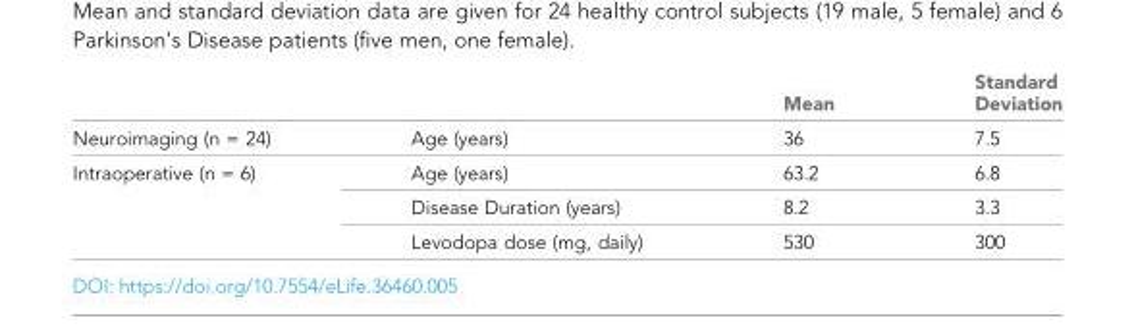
<table><thead><tr><td></td><td></td><td>Mean</td><td>Standard Deviation</td></tr></thead><tbody><tr><td>Neuroimaging (n = 24)</td><td>Age (years)</td><td>36</td><td>7.5</td></tr><tr><td rowspan="3">Intraoperative (n = 6)</td><td>Age (years)</td><td>63.2</td><td>6.8</td></tr><tr><td>Disease Duration (years)</td><td>8.2</td><td>3.3</td></tr><tr><td>Levodopa dose (mg, daily)</td><td>530</td><td>300</td></tr></tbody></table>